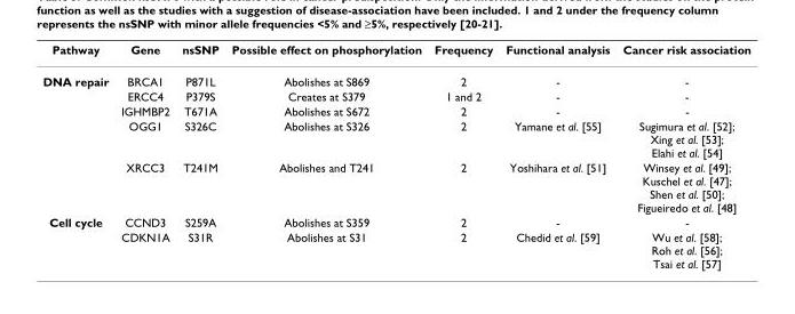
<table><thead><tr><td>Pathway</td><td>Gene</td><td>nsSNP</td><td>Possible effect on phosphorylation</td><td>Frequency</td><td>Functional analysis</td><td>Cancer risk association</td></tr></thead><tbody><tr><td rowspan="5">DNA repair</td><td>BRCA1</td><td>P871L</td><td>Abolishes at S869</td><td>2</td><td>-</td><td>-</td></tr><tr><td>ERCC4</td><td>P379S</td><td>Creates at S379</td><td>1 and 2</td><td>-</td><td>-</td></tr><tr><td>IGHMBP2</td><td>T671A</td><td>Abolishes at S672</td><td>2</td><td>-</td><td>-</td></tr><tr><td>OGG1</td><td>S326C</td><td>Abolishes at S326</td><td>2</td><td>Yamane et al. [55]</td><td>Sugimura et al. [52]; Xing et al. [53]; Elahi et al. [54]</td></tr><tr><td>XRCC3</td><td>T241M</td><td>Abolishes and T241</td><td>2</td><td>Yoshihara et al. [51]</td><td>Winsey et al. [49]; Kuschel et al. [47]; Shen et al. [50]; Figueiredo et al. [48]</td></tr><tr><td rowspan="2">Cell cycle</td><td>CCND3</td><td>S259A</td><td>Abolishes at S359</td><td>2</td><td>-</td><td>-</td></tr><tr><td>CDKN1A</td><td>S31R</td><td>Abolishes at S31</td><td>2</td><td>Chedid et al. [59]</td><td>Wu et al. [58]; Roh et al. [56]; Tsai et al. [57]</td></tr></tbody></table>